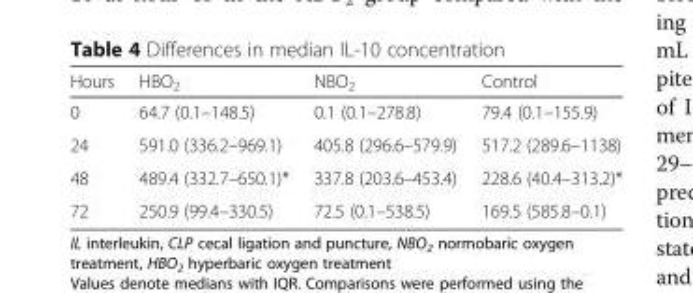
<table><thead><tr><td>Hours</td><td>HBO<sub>2</sub></td><td>NBO<sub>2</sub></td><td>Control</td></tr></thead><tbody><tr><td>0</td><td>64.7 (0.1–148.5)</td><td>0.1 (0.1–278.8)</td><td>79.4 (0.1–155.9)</td></tr><tr><td>24</td><td>591.0 (336.2–969.1)</td><td>405.8 (296.6–579.9)</td><td>517.2 (289.6–1138)</td></tr><tr><td>48</td><td>489.4 (332.7–650.1)*</td><td>337.8 (203.6–453.4)</td><td>228.6 (40.4–313.2)*</td></tr><tr><td>72</td><td>250.9 (99.4–330.5)</td><td>72.5 (0.1–538.5)</td><td>169.5 (585.8–0.1)</td></tr></tbody></table>